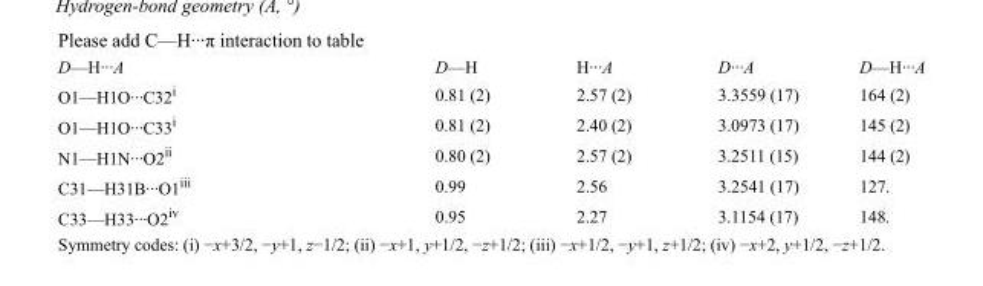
<table><tbody><tr><td>D—H···A</td><td>D—H</td><td>H···A</td><td>D···A</td><td>D—H···A</td></tr><tr><td>O1—H1O···C32<sup>i</sup></td><td>0.81 (2)</td><td>2.57 (2)</td><td>3.3559 (17)</td><td>164 (2)</td></tr><tr><td>O1—H1O···C33<sup>i</sup></td><td>0.81 (2)</td><td>2.40 (2)</td><td>3.0973 (17)</td><td>145 (2)</td></tr><tr><td>N1—H1N···O2<sup>ii</sup></td><td>0.80 (2)</td><td>2.57 (2)</td><td>3.2511 (15)</td><td>144 (2)</td></tr><tr><td>C31—H31B···O1<sup>iii</sup></td><td>0.99</td><td>2.56</td><td>3.2541 (17)</td><td>127.</td></tr><tr><td>C33—H33···O2<sup>iv</sup></td><td>0.95</td><td>2.27</td><td>3.1154 (17)</td><td>148.</td></tr></tbody></table>